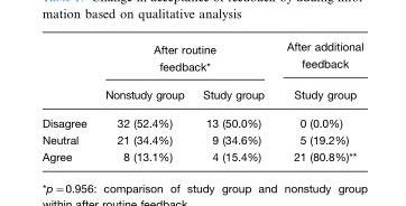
<table><thead><tr><td rowspan="2"></td><td colspan="2">After routine feedback*</td><td rowspan="2">After additional feedback Study group</td></tr><tr><td>Nonstudy group</td><td>Study group</td></tr></thead><tbody><tr><td>Disagree</td><td>32 (52.4%)</td><td>13 (50.0%)</td><td>0 (0.0%)</td></tr><tr><td>Neutral</td><td>21 (34.4%)</td><td>9 (34.6%)</td><td>5 (19.2%)</td></tr><tr><td>Agree</td><td>8 (13.1%)</td><td>4 (15.4%)</td><td>21 (80.8%)**</td></tr></tbody></table>